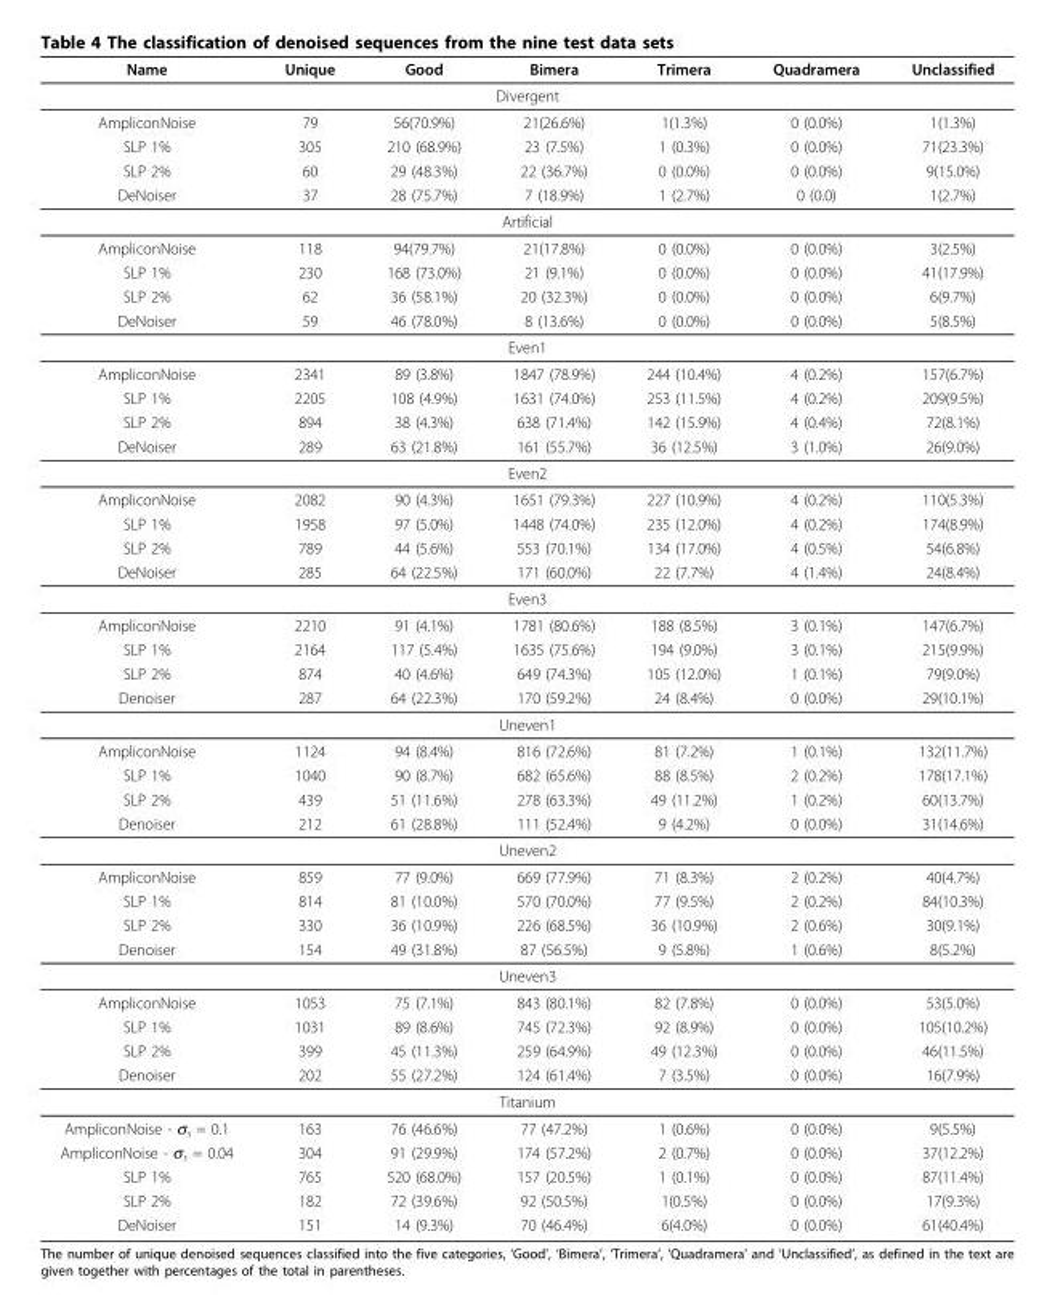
<table><thead><tr><td>Name</td><td>Unique</td><td>Good</td><td>Bimera</td><td>Trimera</td><td>Quadramera</td><td>Unclassified</td></tr></thead><tbody><tr><td colspan="7">Divergent</td></tr><tr><td>AmpliconNoise</td><td>79</td><td>56(70.9%)</td><td>21(26.6%)</td><td>1(1.3%)</td><td>0 (0.0%)</td><td>1(1.3%)</td></tr><tr><td>SLP 1%</td><td>305</td><td>210 (68.9%)</td><td>23 (7.5%)</td><td>1 (0.3%)</td><td>0 (0.0%)</td><td>71(23.3%)</td></tr><tr><td>SLP 2%</td><td>60</td><td>29 (48.3%)</td><td>22 (36.7%)</td><td>0 (0.0%)</td><td>0 (0.0%)</td><td>9(15.0%)</td></tr><tr><td>DeNoiser</td><td>37</td><td>28 (75.7%)</td><td>7 (18.9%)</td><td>1 (2.7%)</td><td>0 (0.0)</td><td>1(2.7%)</td></tr><tr><td colspan="7">Artificial</td></tr><tr><td>AmpliconNoise</td><td>118</td><td>94(79.7%)</td><td>21(17.8%)</td><td>0 (0.0%)</td><td>0 (0.0%)</td><td>3(2.5%)</td></tr><tr><td>SLP 1%</td><td>230</td><td>168 (73.0%)</td><td>21 (9.1%)</td><td>0 (0.0%)</td><td>0 (0.0%)</td><td>41(17.9%)</td></tr><tr><td>SLP 2%</td><td>62</td><td>36 (58.1%)</td><td>20 (32.3%)</td><td>0 (0.0%)</td><td>0 (0.0%)</td><td>6(9.7%)</td></tr><tr><td>DeNoiser</td><td>59</td><td>46 (78.0%)</td><td>8 (13.6%)</td><td>0 (0.0%)</td><td>0 (0.0%)</td><td>5(8.5%)</td></tr><tr><td colspan="7">Even1</td></tr><tr><td>AmpliconNoise</td><td>2341</td><td>89 (3.8%)</td><td>1847 (78.9%)</td><td>244 (10.4%)</td><td>4 (0.2%)</td><td>157(6.7%)</td></tr><tr><td>SLP 1%</td><td>2205</td><td>108 (4.9%)</td><td>1631 (74.0%)</td><td>253 (11.5%)</td><td>4 (0.2%)</td><td>209(9.5%)</td></tr><tr><td>SLP 2%</td><td>894</td><td>38 (4.3%)</td><td>638 (71.4%)</td><td>142 (15.9%)</td><td>4 (0.4%)</td><td>72(8.1%)</td></tr><tr><td>DeNoiser</td><td>289</td><td>63 (21.8%)</td><td>161 (55.7%)</td><td>36 (12.5%)</td><td>3 (1.0%)</td><td>26(9.0%)</td></tr><tr><td colspan="7">Even2</td></tr><tr><td>AmpliconNoise</td><td>2082</td><td>90 (4.3%)</td><td>1651 (79.3%)</td><td>227 (10.9%)</td><td>4 (0.2%)</td><td>110(5.3%)</td></tr><tr><td>SLP 1%</td><td>1958</td><td>97 (5.0%)</td><td>1448 (74.0%)</td><td>235 (12.0%)</td><td>4 (0.2%)</td><td>174(8.9%)</td></tr><tr><td>SLP 2%</td><td>789</td><td>44 (5.6%)</td><td>553 (70.1%)</td><td>134 (17.0%)</td><td>4 (0.5%)</td><td>54(6.8%)</td></tr><tr><td>DeNoiser</td><td>285</td><td>64 (22.5%)</td><td>171 (60.0%)</td><td>22 (7.7%)</td><td>4 (1.4%)</td><td>24(8.4%)</td></tr><tr><td colspan="7">Even3</td></tr><tr><td>AmpliconNoise</td><td>2210</td><td>91 (4.1%)</td><td>1781 (80.6%)</td><td>188 (8.5%)</td><td>3 (0.1%)</td><td>147(6.7%)</td></tr><tr><td>SLP 1%</td><td>2164</td><td>117 (5.4%)</td><td>1635 (75.6%)</td><td>194 (9.0%)</td><td>3 (0.1%)</td><td>215(9.9%)</td></tr><tr><td>SLP 2%</td><td>874</td><td>40 (4.6%)</td><td>649 (74.3%)</td><td>105 (12.0%)</td><td>1 (0.1%)</td><td>79(9.0%)</td></tr><tr><td>Denoiser</td><td>287</td><td>64 (22.3%)</td><td>170 (59.2%)</td><td>24 (8.4%)</td><td>0 (0.0%)</td><td>29(10.1%)</td></tr><tr><td colspan="7">Uneven1</td></tr><tr><td>AmpliconNoise</td><td>1124</td><td>94 (8.4%)</td><td>816 (72.6%)</td><td>81 (7.2%)</td><td>1 (0.1%)</td><td>132(11.7%)</td></tr><tr><td>SLP 1%</td><td>1040</td><td>90 (8.7%)</td><td>682 (65.6%)</td><td>88 (8.5%)</td><td>2 (0.2%)</td><td>178(17.1%)</td></tr><tr><td>SLP 2%</td><td>439</td><td>51 (11.6%)</td><td>278 (63.3%)</td><td>49 (11.2%)</td><td>1 (0.2%)</td><td>60(13.7%)</td></tr><tr><td>Denoiser</td><td>212</td><td>61 (28.8%)</td><td>111 (52.4%)</td><td>9 (4.2%)</td><td>0 (0.0%)</td><td>31(14.6%)</td></tr><tr><td colspan="7">Uneven2</td></tr><tr><td>AmpliconNoise</td><td>859</td><td>77 (9.0%)</td><td>669 (77.9%)</td><td>71 (8.3%)</td><td>2 (0.2%)</td><td>40(4.7%)</td></tr><tr><td>SLP 1%</td><td>814</td><td>81 (10.0%)</td><td>570 (70.0%)</td><td>77 (9.5%)</td><td>2 (0.2%)</td><td>84(10.3%)</td></tr><tr><td>SLP 2%</td><td>330</td><td>36 (10.9%)</td><td>226 (68.5%)</td><td>36 (10.9%)</td><td>2 (0.6%)</td><td>30(9.1%)</td></tr><tr><td>Denoiser</td><td>154</td><td>49 (31.8%)</td><td>87 (56.5%)</td><td>9 (5.8%)</td><td>1 (0.6%)</td><td>8(5.2%)</td></tr><tr><td colspan="7">Uneven3</td></tr><tr><td>AmpliconNoise</td><td>1053</td><td>75 (7.1%)</td><td>843 (80.1%)</td><td>82 (7.8%)</td><td>0 (0.0%)</td><td>53(5.0%)</td></tr><tr><td>SLP 1%</td><td>1031</td><td>89 (8.6%)</td><td>745 (72.3%)</td><td>92 (8.9%)</td><td>0 (0.0%)</td><td>105(10.2%)</td></tr><tr><td>SLP 2%</td><td>399</td><td>45 (11.3%)</td><td>259 (64.9%)</td><td>49 (12.3%)</td><td>0 (0.0%)</td><td>46(11.5%)</td></tr><tr><td>Denoiser</td><td>202</td><td>55 (27.2%)</td><td>124 (61.4%)</td><td>7 (3.5%)</td><td>0 (0.0%)</td><td>16(7.9%)</td></tr><tr><td colspan="7">Titanium</td></tr><tr><td>AmpliconNoise - σ<sub>s</sub> = 0.1</td><td>163</td><td>76 (46.6%)</td><td>77 (47.2%)</td><td>1 (0.6%)</td><td>0 (0.0%)</td><td>9(5.5%)</td></tr><tr><td>AmpliconNoise - σ<sub>s</sub> = 0.04</td><td>304</td><td>91 (29.9%)</td><td>174 (57.2%)</td><td>2 (0.7%)</td><td>0 (0.0%)</td><td>37(12.2%)</td></tr><tr><td>SLP 1%</td><td>765</td><td>520 (68.0%)</td><td>157 (20.5%)</td><td>1 (0.1%)</td><td>0 (0.0%)</td><td>87(11.4%)</td></tr><tr><td>SLP 2%</td><td>182</td><td>72 (39.6%)</td><td>92 (50.5%)</td><td>1(0.5%)</td><td>0 (0.0%)</td><td>17(9.3%)</td></tr><tr><td>DeNoiser</td><td>151</td><td>14 (9.3%)</td><td>70 (46.4%)</td><td>6(4.0%)</td><td>0 (0.0%)</td><td>61(40.4%)</td></tr></tbody></table>